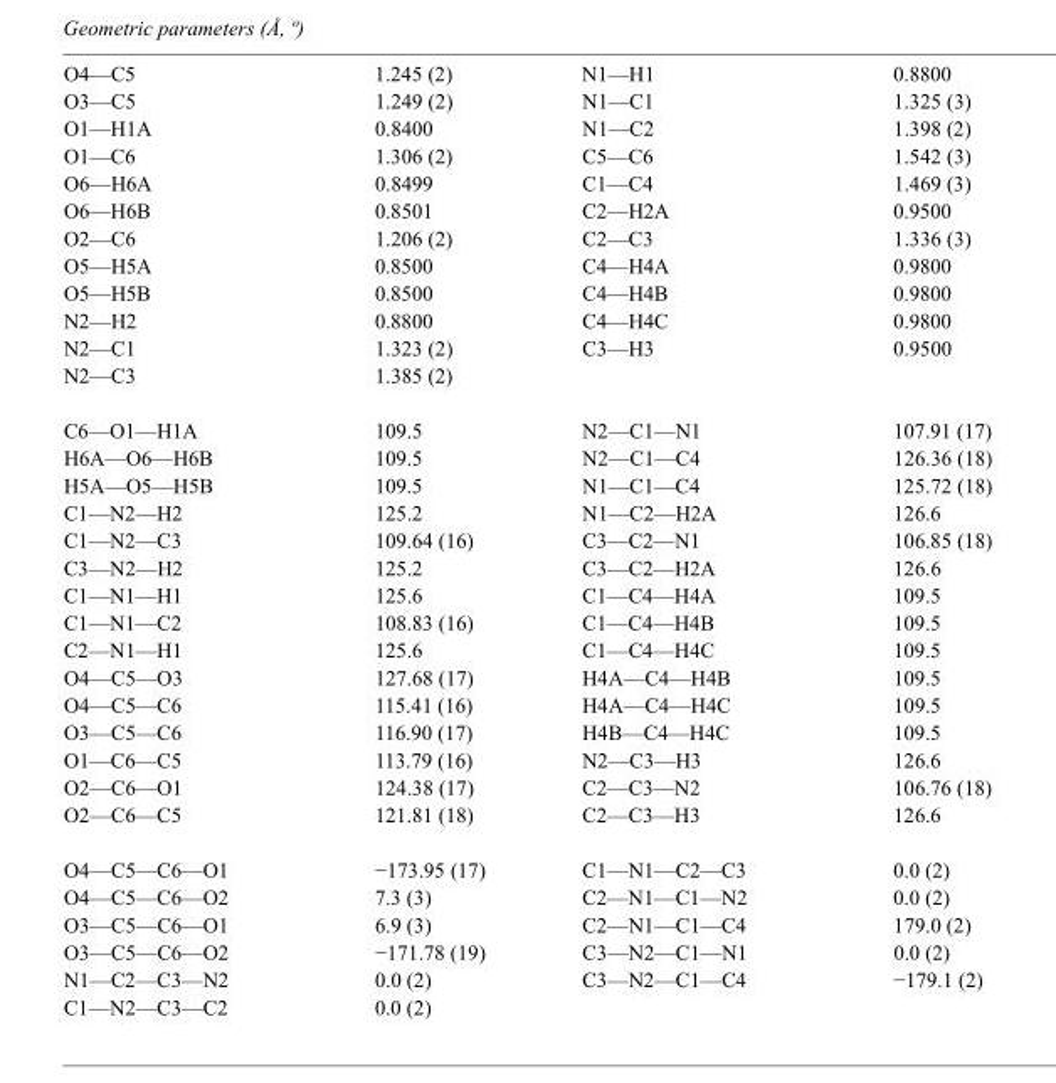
<table><tbody><tr><td>O4—C5</td><td>1.245 (2)</td><td>N1—H1</td><td>0.8800</td></tr><tr><td>O3—C5</td><td>1.249 (2)</td><td>N1—C1</td><td>1.325 (3)</td></tr><tr><td>O1—H1A</td><td>0.8400</td><td>N1—C2</td><td>1.398 (2)</td></tr><tr><td>O1—C6</td><td>1.306 (2)</td><td>C5—C6</td><td>1.542 (3)</td></tr><tr><td>O6—H6A</td><td>0.8499</td><td>C1—C4</td><td>1.469 (3)</td></tr><tr><td>O6—H6B</td><td>0.8501</td><td>C2—H2A</td><td>0.9500</td></tr><tr><td>O2—C6</td><td>1.206 (2)</td><td>C2—C3</td><td>1.336 (3)</td></tr><tr><td>O5—H5A</td><td>0.8500</td><td>C4—H4A</td><td>0.9800</td></tr><tr><td>O5—H5B</td><td>0.8500</td><td>C4—H4B</td><td>0.9800</td></tr><tr><td>N2—H2</td><td>0.8800</td><td>C4—H4C</td><td>0.9800</td></tr><tr><td>N2—C1</td><td>1.323 (2)</td><td>C3—H3</td><td>0.9500</td></tr><tr><td>N2—C3</td><td>1.385 (2)</td><td></td><td></td></tr><tr><td>C6—O1—H1A</td><td>109.5</td><td>N2—C1—N1</td><td>107.91 (17)</td></tr><tr><td>H6A—O6—H6B</td><td>109.5</td><td>N2—C1—C4</td><td>126.36 (18)</td></tr><tr><td>H5A—O5—H5B</td><td>109.5</td><td>N1—C1—C4</td><td>125.72 (18)</td></tr><tr><td>C1—N2—H2</td><td>125.2</td><td>N1—C2—H2A</td><td>126.6</td></tr><tr><td>C1—N2—C3</td><td>109.64 (16)</td><td>C3—C2—N1</td><td>106.85 (18)</td></tr><tr><td>C3—N2—H2</td><td>125.2</td><td>C3—C2—H2A</td><td>126.6</td></tr><tr><td>C1—N1—H1</td><td>125.6</td><td>C1—C4—H4A</td><td>109.5</td></tr><tr><td>C1—N1—C2</td><td>108.83 (16)</td><td>C1—C4—H4B</td><td>109.5</td></tr><tr><td>C2—N1—H1</td><td>125.6</td><td>C1—C4—H4C</td><td>109.5</td></tr><tr><td>O4—C5—O3</td><td>127.68 (17)</td><td>H4A—C4—H4B</td><td>109.5</td></tr><tr><td>O4—C5—C6</td><td>115.41 (16)</td><td>H4A—C4—H4C</td><td>109.5</td></tr><tr><td>O3—C5—C6</td><td>116.90 (17)</td><td>H4B—C4—H4C</td><td>109.5</td></tr><tr><td>O1—C6—C5</td><td>113.79 (16)</td><td>N2—C3—H3</td><td>126.6</td></tr><tr><td>O2—C6—O1</td><td>124.38 (17)</td><td>C2—C3—N2</td><td>106.76 (18)</td></tr><tr><td>O2—C6—C5</td><td>121.81 (18)</td><td>C2—C3—H3</td><td>126.6</td></tr><tr><td>O4—C5—C6—O1</td><td>−173.95 (17)</td><td>C1—N1—C2—C3</td><td>0.0 (2)</td></tr><tr><td>O4—C5—C6—O2</td><td>7.3 (3)</td><td>C2—N1—C1—N2</td><td>0.0 (2)</td></tr><tr><td>O3—C5—C6—O1</td><td>6.9 (3)</td><td>C2—N1—C1—C4</td><td>179.0 (2)</td></tr><tr><td>O3—C5—C6—O2</td><td>−171.78 (19)</td><td>C3—N2—C1—N1</td><td>0.0 (2)</td></tr><tr><td>N1—C2—C3—N2</td><td>0.0 (2)</td><td>C3—N2—C1—C4</td><td>−179.1 (2)</td></tr><tr><td>C1—N2—C3—C2</td><td>0.0 (2)</td><td></td><td></td></tr></tbody></table>